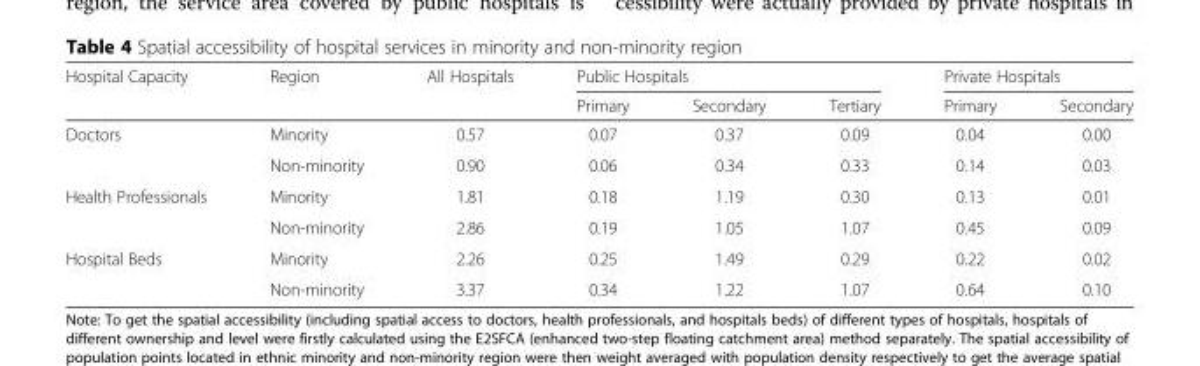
<table><thead><tr><td rowspan="2">Hospital Capacity</td><td rowspan="2">Region</td><td rowspan="2">All Hospitals</td><td colspan="3">Public Hospitals</td><td colspan="2">Private Hospitals</td></tr><tr><td>Primary</td><td>Secondary</td><td>Tertiary</td><td>Primary</td><td>Secondary</td></tr></thead><tbody><tr><td rowspan="2">Doctors</td><td>Minority</td><td>0.57</td><td>0.07</td><td>0.37</td><td>0.09</td><td>0.04</td><td>0.00</td></tr><tr><td>Non-minority</td><td>0.90</td><td>0.06</td><td>0.34</td><td>0.33</td><td>0.14</td><td>0.03</td></tr><tr><td rowspan="2">Health Professionals</td><td>Minority</td><td>1.81</td><td>0.18</td><td>1.19</td><td>0.30</td><td>0.13</td><td>0.01</td></tr><tr><td>Non-minority</td><td>2.86</td><td>0.19</td><td>1.05</td><td>1.07</td><td>0.45</td><td>0.09</td></tr><tr><td rowspan="2">Hospital Beds</td><td>Minority</td><td>2.26</td><td>0.25</td><td>1.49</td><td>0.29</td><td>0.22</td><td>0.02</td></tr><tr><td>Non-minority</td><td>3.37</td><td>0.34</td><td>1.22</td><td>1.07</td><td>0.64</td><td>0.10</td></tr></tbody></table>